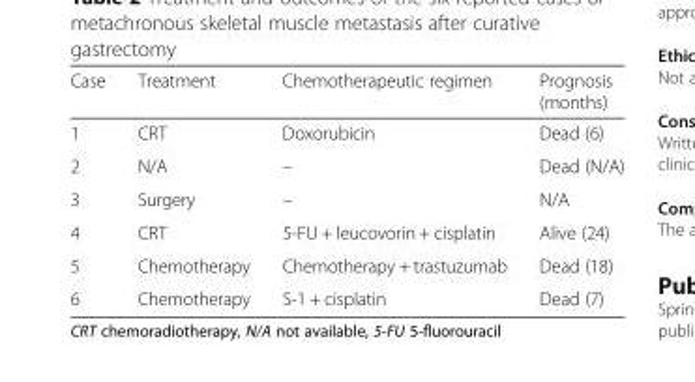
<table><thead><tr><td>Case</td><td>Treatment</td><td>Chemotherapeutic regimen</td><td>Prognosis (months)</td></tr></thead><tbody><tr><td>1</td><td>CRT</td><td>Doxorubicin</td><td>Dead (6)</td></tr><tr><td>2</td><td>N/A</td><td>–</td><td>Dead (N/A)</td></tr><tr><td>3</td><td>Surgery</td><td>–</td><td>N/A</td></tr><tr><td>4</td><td>CRT</td><td>5-FU + leucovorin + cisplatin</td><td>Alive (24)</td></tr><tr><td>5</td><td>Chemotherapy</td><td>Chemotherapy + trastuzumab</td><td>Dead (18)</td></tr><tr><td>6</td><td>Chemotherapy</td><td>S-1 + cisplatin</td><td>Dead (7)</td></tr></tbody></table>